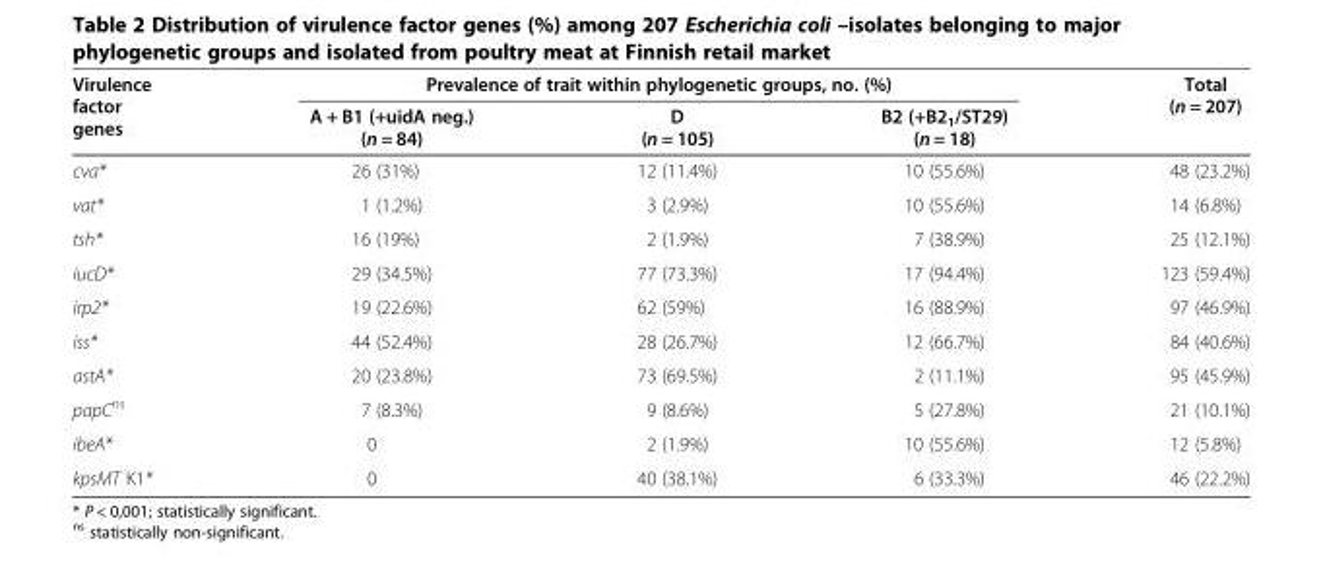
<table><thead><tr><td rowspan="2">Virulence factor genes</td><td colspan="3">Prevalence of trait within phylogenetic groups, no. (%)</td><td rowspan="2">Total (n = 207)</td></tr><tr><td>A + B1 (+uidA neg.) (n = 84)</td><td>D (n = 105)</td><td>B2 (+B2<sub>1</sub>/ST29) (n = 18)</td></tr></thead><tbody><tr><td>cva*</td><td>26 (31%)</td><td>12 (11.4%)</td><td>10 (55.6%)</td><td>48 (23.2%)</td></tr><tr><td>vat*</td><td>1 (1.2%)</td><td>3 (2.9%)</td><td>10 (55.6%)</td><td>14 (6.8%)</td></tr><tr><td>tsh*</td><td>16 (19%)</td><td>2 (1.9%)</td><td>7 (38.9%)</td><td>25 (12.1%)</td></tr><tr><td>iucD*</td><td>29 (34.5%)</td><td>77 (73.3%)</td><td>17 (94.4%)</td><td>123 (59.4%)</td></tr><tr><td>irp2*</td><td>19 (22.6%)</td><td>62 (59%)</td><td>16 (88.9%)</td><td>97 (46.9%)</td></tr><tr><td>iss*</td><td>44 (52.4%)</td><td>28 (26.7%)</td><td>12 (66.7%)</td><td>84 (40.6%)</td></tr><tr><td>astA*</td><td>20 (23.8%)</td><td>73 (69.5%)</td><td>2 (11.1%)</td><td>95 (45.9%)</td></tr><tr><td>papC<sup>ns</sup></td><td>7 (8.3%)</td><td>9 (8.6%)</td><td>5 (27.8%)</td><td>21 (10.1%)</td></tr><tr><td>ibeA*</td><td>0</td><td>2 (1.9%)</td><td>10 (55.6%)</td><td>12 (5.8%)</td></tr><tr><td>kpsMT K1*</td><td>0</td><td>40 (38.1%)</td><td>6 (33.3%)</td><td>46 (22.2%)</td></tr></tbody></table>